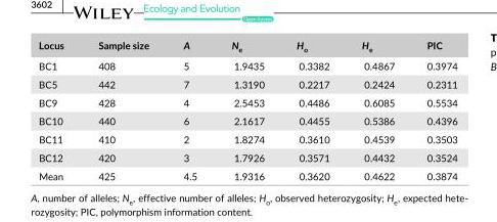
<table><thead><tr><td>Locus</td><td>Sample size</td><td>A</td><td>N<sub>e</sub></td><td>H<sub>o</sub></td><td>H<sub>e</sub></td><td>PIC</td></tr></thead><tbody><tr><td>BC1</td><td>408</td><td>5</td><td>1.9435</td><td>0.3382</td><td>0.4867</td><td>0.3974</td></tr><tr><td>BC5</td><td>442</td><td>7</td><td>1.3190</td><td>0.2217</td><td>0.2424</td><td>0.2311</td></tr><tr><td>BC9</td><td>428</td><td>4</td><td>2.5453</td><td>0.4486</td><td>0.6085</td><td>0.5534</td></tr><tr><td>BC10</td><td>440</td><td>6</td><td>2.1617</td><td>0.4455</td><td>0.5386</td><td>0.4396</td></tr><tr><td>BC11</td><td>410</td><td>2</td><td>1.8274</td><td>0.3610</td><td>0.4539</td><td>0.3503</td></tr><tr><td>BC12</td><td>420</td><td>3</td><td>1.7926</td><td>0.3571</td><td>0.4432</td><td>0.3524</td></tr><tr><td>Mean</td><td>425</td><td>4.5</td><td>1.9316</td><td>0.3620</td><td>0.4622</td><td>0.3874</td></tr></tbody></table>